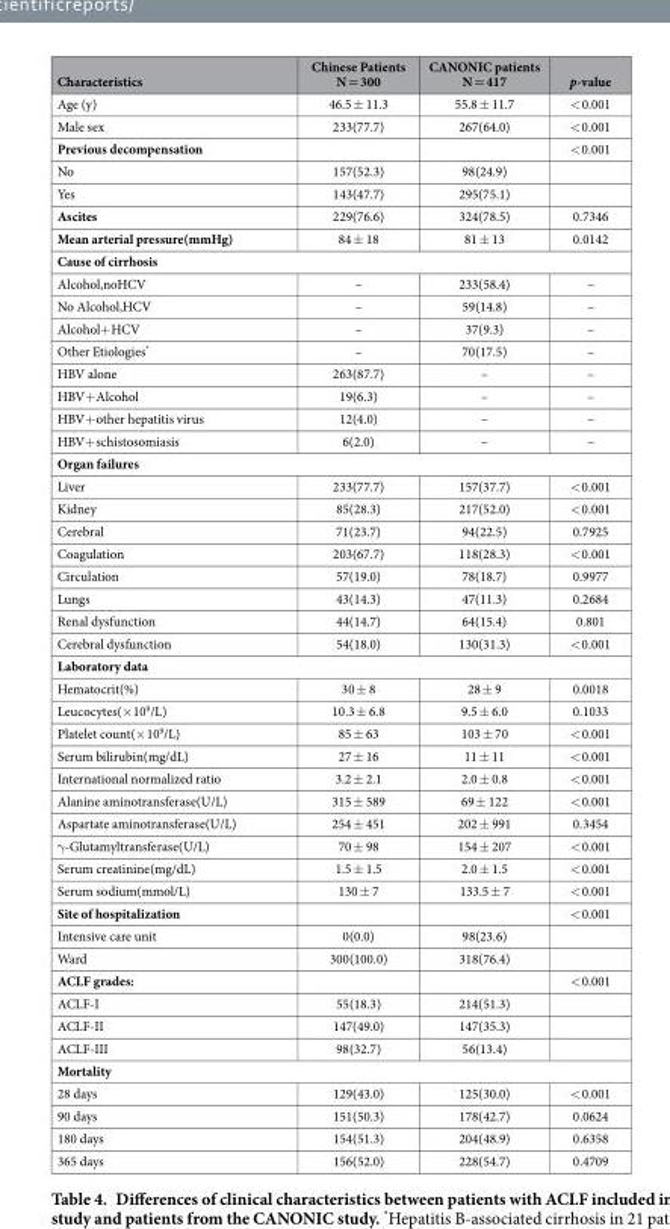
<table><thead><tr><td>Characteristics</td><td>Chinese Patients N = 300</td><td>CANONIC patients N = 417</td><td>p-value</td></tr></thead><tbody><tr><td>Age (y)</td><td>46.5 ± 11.3</td><td>55.8 ± 11.7</td><td>&lt; 0.001</td></tr><tr><td>Male sex</td><td>233(77.7)</td><td>267(64.0)</td><td>&lt; 0.001</td></tr><tr><td>Previous decompensation</td><td></td><td></td><td>&lt; 0.001</td></tr><tr><td>No</td><td>157(52.3)</td><td>98(24.9)</td><td></td></tr><tr><td>Yes</td><td>143(47.7)</td><td>295(75.1)</td><td></td></tr><tr><td>Ascites</td><td>229(76.6)</td><td>324(78.5)</td><td>0.7346</td></tr><tr><td>Mean arterial pressure(mmHg)</td><td>84 ± 18</td><td>81 ± 13</td><td>0.0142</td></tr><tr><td colspan="4">Cause of cirrhosis</td></tr><tr><td>Alcohol,noHCV</td><td>–</td><td>233(58.4)</td><td>–</td></tr><tr><td>No Alcohol,HCV</td><td>–</td><td>59(14.8)</td><td>–</td></tr><tr><td>Alcohol+ HCV</td><td>–</td><td>37(9.3)</td><td>–</td></tr><tr><td>Other Etiologies*</td><td>–</td><td>70(17.5)</td><td>–</td></tr><tr><td>HBV alone</td><td>263(87.7)</td><td>–</td><td>–</td></tr><tr><td>HBV+ Alcohol</td><td>19(6.3)</td><td>–</td><td>–</td></tr><tr><td>HBV+ other hepatitis virus</td><td>12(4.0)</td><td>–</td><td>–</td></tr><tr><td>HBV+ schistosomiasis</td><td>6(2.0)</td><td>–</td><td>–</td></tr><tr><td colspan="4">Organ failures</td></tr><tr><td>Liver</td><td>233(77.7)</td><td>157(37.7)</td><td>&lt; 0.001</td></tr><tr><td>Kidney</td><td>85(28.3)</td><td>217(52.0)</td><td>&lt; 0.001</td></tr><tr><td>Cerebral</td><td>71(23.7)</td><td>94(22.5)</td><td>0.7925</td></tr><tr><td>Coagulation</td><td>203(67.7)</td><td>118(28.3)</td><td>&lt; 0.001</td></tr><tr><td>Circulation</td><td>57(19.0)</td><td>78(18.7)</td><td>0.9977</td></tr><tr><td>Lungs</td><td>43(14.3)</td><td>47(11.3)</td><td>0.2684</td></tr><tr><td>Renal dysfunction</td><td>44(14.7)</td><td>64(15.4)</td><td>0.801</td></tr><tr><td>Cerebral dysfunction</td><td>54(18.0)</td><td>130(31.3)</td><td>&lt; 0.001</td></tr><tr><td colspan="4">Laboratory data</td></tr><tr><td>Hematocrit(%)</td><td>30 ± 8</td><td>28 ± 9</td><td>0.0018</td></tr><tr><td>Leucocytes(× 10<sup>9</sup>/L)</td><td>10.3 ± 6.8</td><td>9.5 ± 6.0</td><td>0.1033</td></tr><tr><td>Platelet count(× 10<sup>9</sup>/L)</td><td>85 ± 63</td><td>103 ± 70</td><td>&lt; 0.001</td></tr><tr><td>Serum bilirubin(mg/dL)</td><td>27 ± 16</td><td>11 ± 11</td><td>&lt; 0.001</td></tr><tr><td>International normalized ratio</td><td>3.2 ± 2.1</td><td>2.0 ± 0.8</td><td>&lt; 0.001</td></tr><tr><td>Alanine aminotransferase(U/L)</td><td>315 ± 589</td><td>69 ± 122</td><td>&lt; 0.001</td></tr><tr><td>Aspartate aminotransferase(U/L)</td><td>254 ± 451</td><td>202 ± 991</td><td>0.3454</td></tr><tr><td>γ -Glutamyltransferase(U/L)</td><td>70 ± 98</td><td>154 ± 207</td><td>&lt; 0.001</td></tr><tr><td>Serum creatinine(mg/dL)</td><td>1.5 ± 1.5</td><td>2.0 ± 1.5</td><td>&lt; 0.001</td></tr><tr><td>Serum sodium(mmol/L)</td><td>130 ± 7</td><td>133.5 ± 7</td><td>&lt; 0.001</td></tr><tr><td>Site of hospitalization</td><td></td><td></td><td>&lt; 0.001</td></tr><tr><td>Intensive care unit</td><td>0(0.0)</td><td>98(23.6)</td><td></td></tr><tr><td>Ward</td><td>300(100.0)</td><td>318(76.4)</td><td></td></tr><tr><td>ACLF grades:</td><td></td><td></td><td>&lt; 0.001</td></tr><tr><td>ACLF-I</td><td>55(18.3)</td><td>214(51.3)</td><td></td></tr><tr><td>ACLF-II</td><td>147(49.0)</td><td>147(35.3)</td><td></td></tr><tr><td>ACLF-III</td><td>98(32.7)</td><td>56(13.4)</td><td></td></tr><tr><td colspan="4">Mortality</td></tr><tr><td>28 days</td><td>129(43.0)</td><td>125(30.0)</td><td>&lt; 0.001</td></tr><tr><td>90 days</td><td>151(50.3)</td><td>178(42.7)</td><td>0.0624</td></tr><tr><td>180 days</td><td>154(51.3)</td><td>204(48.9)</td><td>0.6358</td></tr><tr><td>365 days</td><td>156(52.0)</td><td>228(54.7)</td><td>0.4709</td></tr></tbody></table>